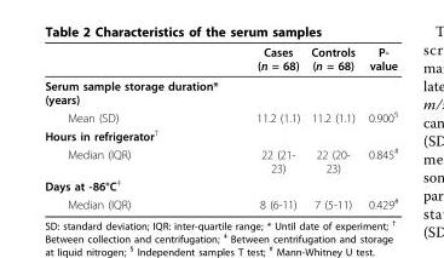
<table><thead><tr><td></td><td>Cases (n = 68)</td><td>Controls (n = 68)</td><td>P- value</td></tr></thead><tbody><tr><td colspan="4">Serum sample storage duration* (years)</td></tr><tr><td>Mean (SD)</td><td>11.2 (1.1)</td><td>11.2 (1.1)</td><td>0.900<sup>§</sup></td></tr><tr><td colspan="4">Hours in refrigerator<sup>†</sup></td></tr><tr><td>Median (IQR)</td><td>22 (21- 23)</td><td>22 (20- 23)</td><td>0.845<sup>#</sup></td></tr><tr><td colspan="4">Days at -86°C<sup>‡</sup></td></tr><tr><td>Median (IQR)</td><td>8 (6-11)</td><td>7 (5-11)</td><td>0.429<sup>#</sup></td></tr></tbody></table>